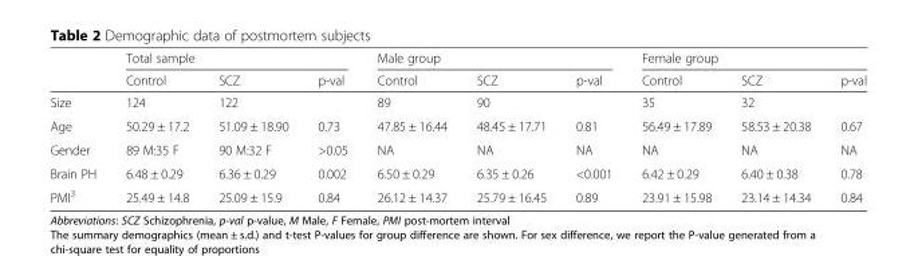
<table><thead><tr><td rowspan="2"></td><td colspan="3">Total sample</td><td colspan="3">Male group</td><td colspan="3">Female group</td></tr><tr><td>Control</td><td>SCZ</td><td>p-val</td><td>Control</td><td>SCZ</td><td>p-val</td><td>Control</td><td>SCZ</td><td>p-val</td></tr></thead><tbody><tr><td>Size</td><td>124</td><td>122</td><td></td><td>89</td><td>90</td><td></td><td>35</td><td>32</td><td></td></tr><tr><td>Age</td><td>50.29 ± 17.2</td><td>51.09 ± 18.90</td><td>0.73</td><td>47.85 ± 16.44</td><td>48.45 ± 17.71</td><td>0.81</td><td>56.49 ± 17.89</td><td>58.53 ± 20.38</td><td>0.67</td></tr><tr><td>Gender</td><td>89 M:35 F</td><td>90 M:32 F</td><td>&gt;0.05</td><td>NA</td><td>NA</td><td>NA</td><td>NA</td><td>NA</td><td>NA</td></tr><tr><td>Brain PH</td><td>6.48 ± 0.29</td><td>6.36 ± 0.29</td><td>0.002</td><td>6.50 ± 0.29</td><td>6.35 ± 0.26</td><td>&lt;0.001</td><td>6.42 ± 0.29</td><td>6.40 ± 0.38</td><td>0.78</td></tr><tr><td>PMI<sup>3</sup></td><td>25.49 ± 14.8</td><td>25.09 ± 15.9</td><td>0.84</td><td>26.12 ± 14.37</td><td>25.79 ± 16.45</td><td>0.89</td><td>23.91 ± 15.98</td><td>23.14 ± 14.34</td><td>0.84</td></tr></tbody></table>